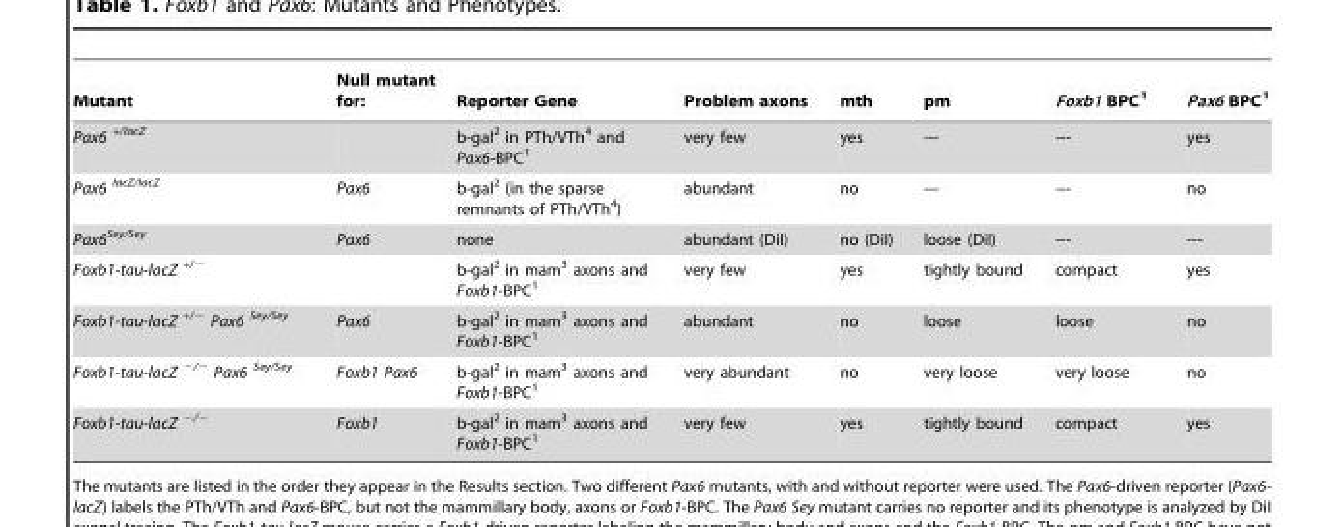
<table><thead><tr><td>Mutant</td><td>Null mutant for:</td><td>Reporter Gene</td><td>Problem axons</td><td>mth</td><td>pm</td><td>Foxb1 BPC<sup>1</sup></td><td>Pax6 BPC<sup>1</sup></td></tr></thead><tbody><tr><td>Pax6 <sup>+/lacZ</sup></td><td></td><td>b-gal<sup>2</sup> in PTh/VTh<sup>4</sup> and Pax6-BPC<sup>1</sup></td><td>very few</td><td>yes</td><td>---</td><td>---</td><td>yes</td></tr><tr><td>Pax6 <sup>lacZ/lacZ</sup></td><td>Pax6</td><td>b-gal<sup>2</sup> (in the sparse remnants of PTh/VTh<sup>4</sup>)</td><td>abundant</td><td>no</td><td>---</td><td>---</td><td>no</td></tr><tr><td>Pax6<sup>Sey/Sey</sup></td><td>Pax6</td><td>none</td><td>abundant (DiI)</td><td>no (DiI)</td><td>loose (DiI)</td><td>---</td><td>---</td></tr><tr><td>Foxb1-tau-lacZ <sup>+/−</sup></td><td></td><td>b-gal<sup>2</sup> in mam<sup>3</sup> axons and Foxb1-BPC<sup>1</sup></td><td>very few</td><td>yes</td><td>tightly bound</td><td>compact</td><td>yes</td></tr><tr><td>Foxb1-tau-lacZ <sup>+/−</sup> Pax6 <sup>Sey/Sey</sup></td><td>Pax6</td><td>b-gal<sup>2</sup> in mam<sup>3</sup> axons and Foxb1-BPC<sup>1</sup></td><td>abundant</td><td>no</td><td>loose</td><td>loose</td><td>no</td></tr><tr><td>Foxb1-tau-lacZ <sup>−/−</sup> Pax6 <sup>Sey/Sey</sup></td><td>Foxb1 Pax6</td><td>b-gal<sup>2</sup> in mam<sup>3</sup> axons and Foxb1-BPC<sup>1</sup></td><td>very abundant</td><td>no</td><td>very loose</td><td>very loose</td><td>no</td></tr><tr><td>Foxb1-tau-lacZ <sup>−/−</sup></td><td>Foxb1</td><td>b-gal<sup>2</sup> in mam<sup>3</sup> axons and Foxb1-BPC<sup>1</sup></td><td>very few</td><td>yes</td><td>tightly bound</td><td>compact</td><td>yes</td></tr></tbody></table>